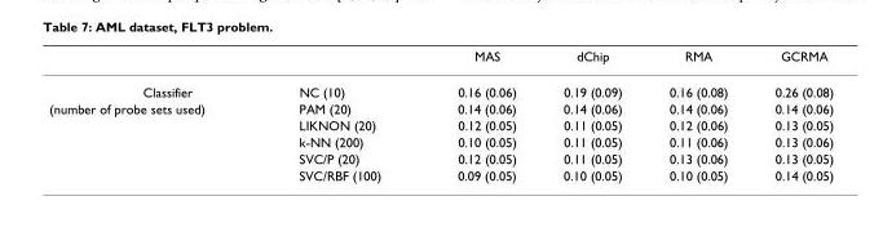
<table><thead><tr><td></td><td></td><td>MAS</td><td>dChip</td><td>RMA</td><td>GCRMA</td></tr></thead><tbody><tr><td>Classifier</td><td>NC (10)</td><td>0.16 (0.06)</td><td>0.19 (0.09)</td><td>0.16 (0.08)</td><td>0.26 (0.08)</td></tr><tr><td rowspan="5">(number of probe sets used)</td><td>PAM (20)</td><td>0.14 (0.06)</td><td>0.14 (0.06)</td><td>0.14 (0.06)</td><td>0.14 (0.06)</td></tr><tr><td>LIKNON (20)</td><td>0.12 (0.05)</td><td>0.11 (0.05)</td><td>0.12 (0.06)</td><td>0.13 (0.05)</td></tr><tr><td>k-NN (200)</td><td>0.10 (0.05)</td><td>0.11 (0.05)</td><td>0.11 (0.06)</td><td>0.13 (0.06)</td></tr><tr><td>SVC/P (20)</td><td>0.12 (0.05)</td><td>0.11 (0.05)</td><td>0.13 (0.06)</td><td>0.13 (0.05)</td></tr><tr><td>SVC/RBF (100)</td><td>0.09 (0.05)</td><td>0.10 (0.05)</td><td>0.10 (0.05)</td><td>0.14 (0.05)</td></tr></tbody></table>